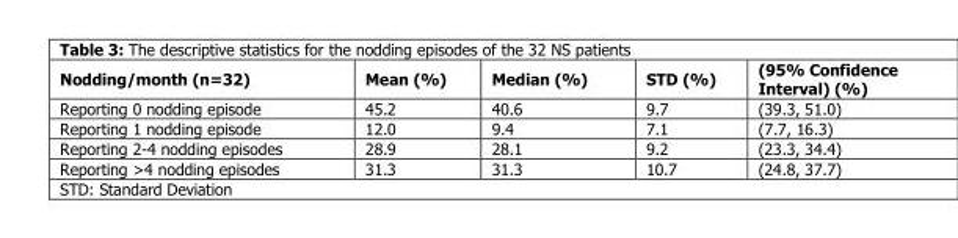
<table><thead><tr><td>Nodding/month (n=32)</td><td>Mean (%)</td><td>Median (%)</td><td>STD (%)</td><td>(95% Confidence Interval) (%)</td></tr></thead><tbody><tr><td>Reporting 0 nodding episode</td><td>45.2</td><td>40.6</td><td>9.7</td><td>(39.3, 51.0)</td></tr><tr><td>Reporting 1 nodding episode</td><td>12.0</td><td>9.4</td><td>7.1</td><td>(7.7, 16.3)</td></tr><tr><td>Reporting 2-4 nodding episodes</td><td>28.9</td><td>28.1</td><td>9.2</td><td>(23.3, 34.4)</td></tr><tr><td>Reporting &gt;4 nodding episodes</td><td>31.3</td><td>31.3</td><td>10.7</td><td>(24.8, 37.7)</td></tr></tbody></table>